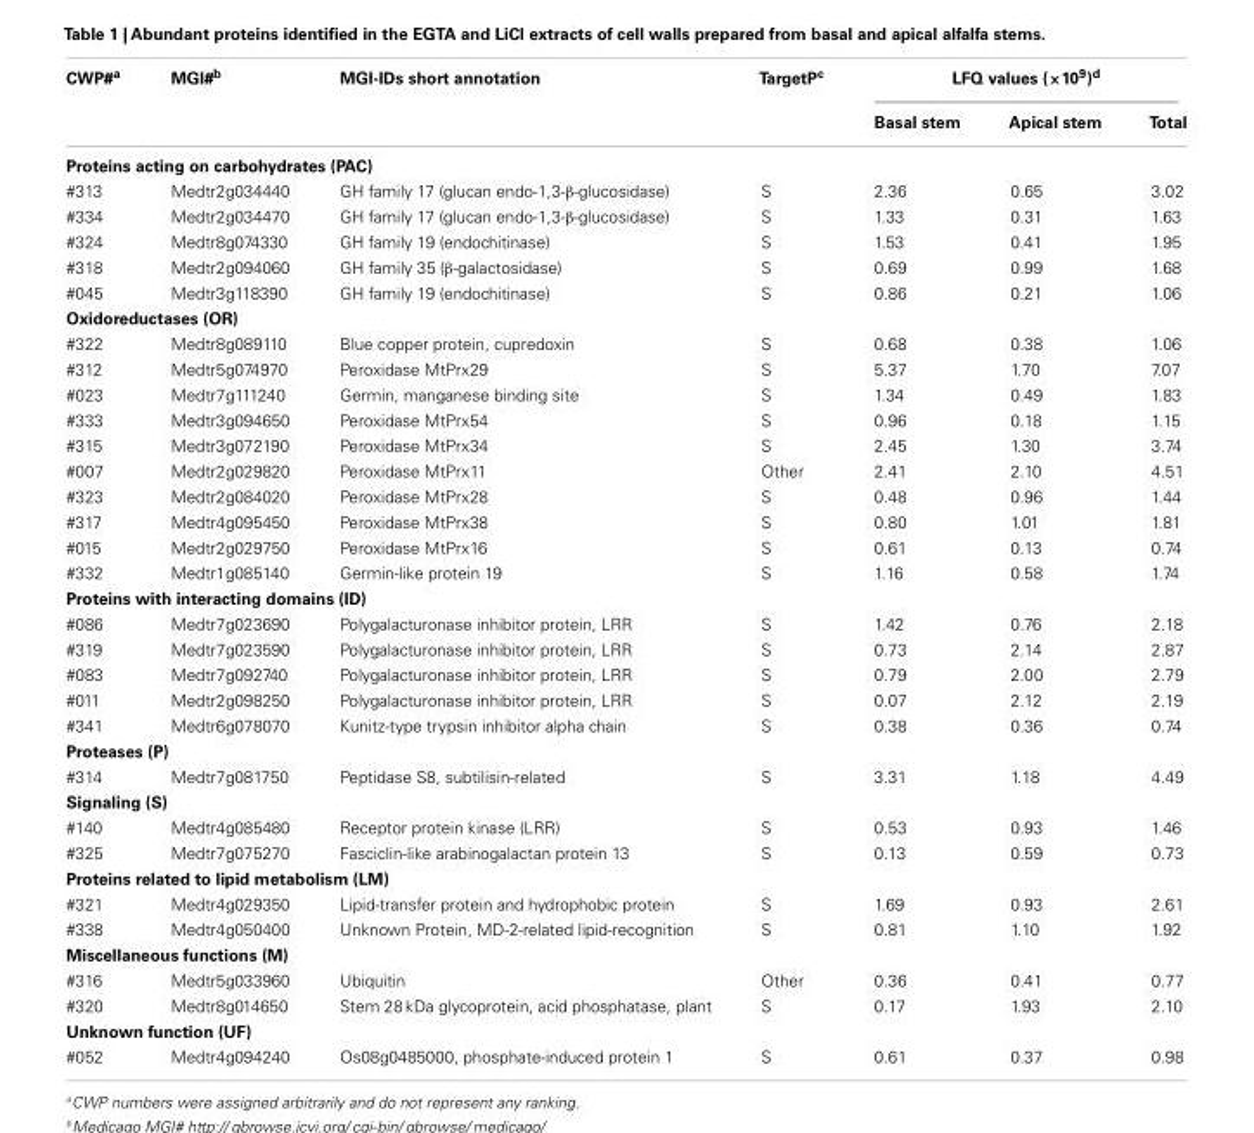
<table><thead><tr><td rowspan="2">CWP#<sup>a</sup></td><td rowspan="2">MGI#<sup>b</sup></td><td rowspan="2">MGI-IDs short annotation</td><td rowspan="2">TargetP<sup>c</sup></td><td colspan="3">LFQ values (×10<sup>9</sup>)<sup>d</sup></td></tr><tr><td>Basal stem</td><td>Apical stem</td><td>Total</td></tr></thead><tbody><tr><td colspan="7">Proteins acting on carbohydrates (PAC)</td></tr><tr><td>#313</td><td>Medtr2g034440</td><td>GH family 17 (glucan endo-1,3-β-glucosidase)</td><td>S</td><td>2.36</td><td>0.65</td><td>3.02</td></tr><tr><td>#334</td><td>Medtr2g034470</td><td>GH family 17 (glucan endo-1,3-β-glucosidase)</td><td>S</td><td>1.33</td><td>0.31</td><td>1.63</td></tr><tr><td>#324</td><td>Medtr8g074330</td><td>GH family 19 (endochitinase)</td><td>S</td><td>1.53</td><td>0.41</td><td>1.95</td></tr><tr><td>#318</td><td>Medtr2g094060</td><td>GH family 35 (β-galactosidase)</td><td>S</td><td>0.69</td><td>0.99</td><td>1.68</td></tr><tr><td>#045</td><td>Medtr3g118390</td><td>GH family 19 (endochitinase)</td><td>S</td><td>0.86</td><td>0.21</td><td>1.06</td></tr><tr><td colspan="7">Oxidoreductases (OR)</td></tr><tr><td>#322</td><td>Medtr8g089110</td><td>Blue copper protein, cupredoxin</td><td>S</td><td>0.68</td><td>0.38</td><td>1.06</td></tr><tr><td>#312</td><td>Medtr5g074970</td><td>Peroxidase MtPrx29</td><td>S</td><td>5.37</td><td>1.70</td><td>7.07</td></tr><tr><td>#023</td><td>Medtr7g111240</td><td>Germin, manganese binding site</td><td>S</td><td>1.34</td><td>0.49</td><td>1.83</td></tr><tr><td>#333</td><td>Medtr3g094650</td><td>Peroxidase MtPrx54</td><td>S</td><td>0.96</td><td>0.18</td><td>1.15</td></tr><tr><td>#315</td><td>Medtr3g072190</td><td>Peroxidase MtPrx34</td><td>S</td><td>2.45</td><td>1.30</td><td>3.74</td></tr><tr><td>#007</td><td>Medtr2g029820</td><td>Peroxidase MtPrx11</td><td>Other</td><td>2.41</td><td>2.10</td><td>4.51</td></tr><tr><td>#323</td><td>Medtr2g084020</td><td>Peroxidase MtPrx28</td><td>S</td><td>0.48</td><td>0.96</td><td>1.44</td></tr><tr><td>#317</td><td>Medtr4g095450</td><td>Peroxidase MtPrx38</td><td>S</td><td>0.80</td><td>1.01</td><td>1.81</td></tr><tr><td>#015</td><td>Medtr2g029750</td><td>Peroxidase MtPrx16</td><td>S</td><td>0.61</td><td>0.13</td><td>0.74</td></tr><tr><td>#332</td><td>Medtr1g085140</td><td>Germin-like protein 19</td><td>S</td><td>1.16</td><td>0.58</td><td>1.74</td></tr><tr><td colspan="7">Proteins with interacting domains (ID)</td></tr><tr><td>#086</td><td>Medtr7g023690</td><td>Polygalacturonase inhibitor protein, LRR</td><td>S</td><td>1.42</td><td>0.76</td><td>2.18</td></tr><tr><td>#319</td><td>Medtr7g023590</td><td>Polygalacturonase inhibitor protein, LRR</td><td>S</td><td>0.73</td><td>2.14</td><td>2.87</td></tr><tr><td>#083</td><td>Medtr7g092740</td><td>Polygalacturonase inhibitor protein, LRR</td><td>S</td><td>0.79</td><td>2.00</td><td>2.79</td></tr><tr><td>#011</td><td>Medtr2g098250</td><td>Polygalacturonase inhibitor protein, LRR</td><td>S</td><td>0.07</td><td>2.12</td><td>2.19</td></tr><tr><td>#341</td><td>Medtr6g078070</td><td>Kunitz-type trypsin inhibitor alpha chain</td><td>S</td><td>0.38</td><td>0.36</td><td>0.74</td></tr><tr><td colspan="7">Proteases (P)</td></tr><tr><td>#314</td><td>Medtr7g081750</td><td>Peptidase S8, subtilisin-related</td><td>S</td><td>3.31</td><td>1.18</td><td>4.49</td></tr><tr><td colspan="7">Signaling (S)</td></tr><tr><td>#140</td><td>Medtr4g085480</td><td>Receptor protein kinase (LRR)</td><td>S</td><td>0.53</td><td>0.93</td><td>1.46</td></tr><tr><td>#325</td><td>Medtr7g075270</td><td>Fasciclin-like arabinogalactan protein 13</td><td>S</td><td>0.13</td><td>0.59</td><td>0.73</td></tr><tr><td colspan="7">Proteins related to lipid metabolism (LM)</td></tr><tr><td>#321</td><td>Medtr4g029350</td><td>Lipid-transfer protein and hydrophobic protein</td><td>S</td><td>1.69</td><td>0.93</td><td>2.61</td></tr><tr><td>#338</td><td>Medtr4g050400</td><td>Unknown Protein, MD-2-related lipid-recognition</td><td>S</td><td>0.81</td><td>1.10</td><td>1.92</td></tr><tr><td colspan="7">Miscellaneous functions (M)</td></tr><tr><td>#316</td><td>Medtr5g033960</td><td>Ubiquitin</td><td>Other</td><td>0.36</td><td>0.41</td><td>0.77</td></tr><tr><td>#320</td><td>Medtr8g014650</td><td>Stem 28 kDa glycoprotein, acid phosphatase, plant</td><td>S</td><td>0.17</td><td>1.93</td><td>2.10</td></tr><tr><td colspan="7">Unknown function (UF)</td></tr><tr><td>#052</td><td>Medtr4g094240</td><td>Os08g0485000, phosphate-induced protein 1</td><td>S</td><td>0.61</td><td>0.37</td><td>0.98</td></tr></tbody></table>